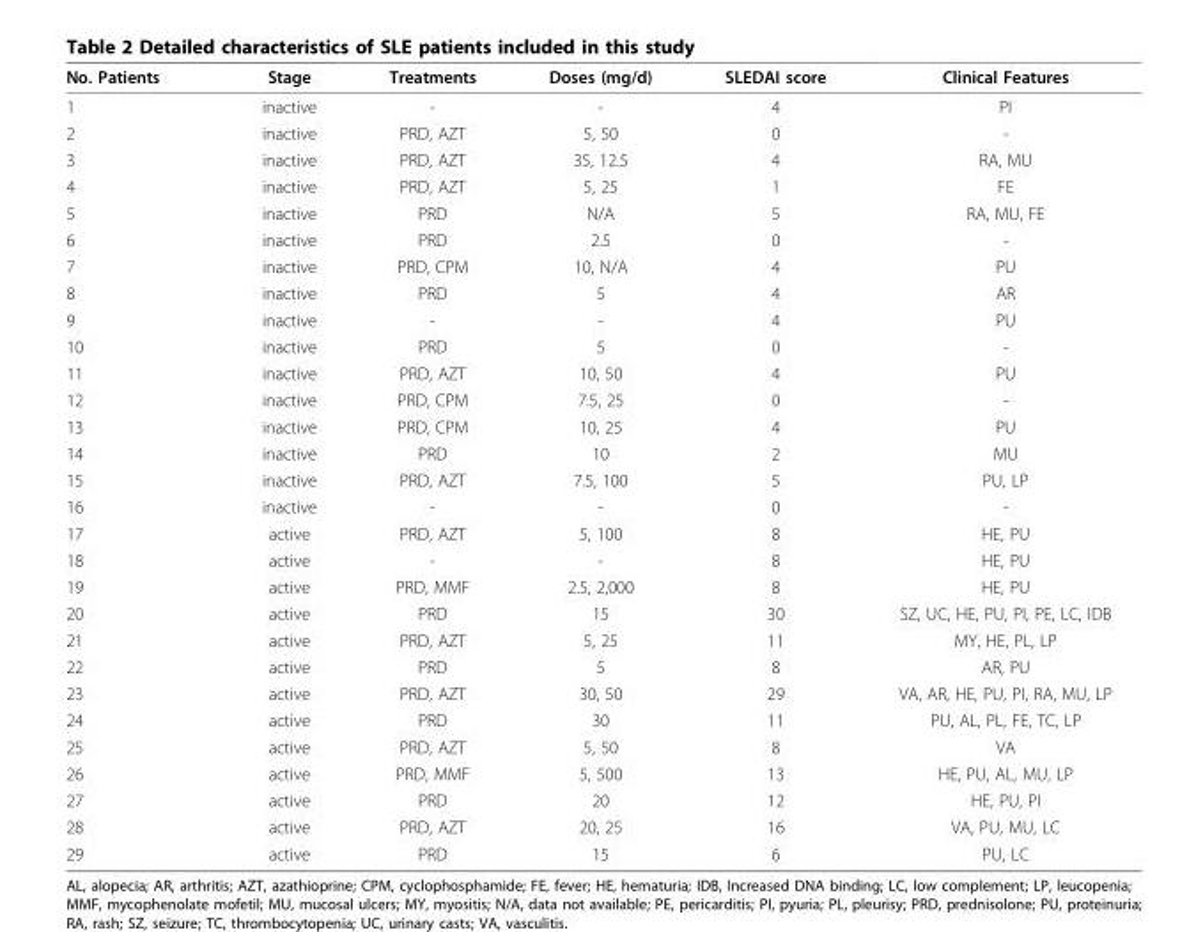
<table><thead><tr><td>No. Patients</td><td>Stage</td><td>Treatments</td><td>Doses (mg/d)</td><td>SLEDAI score</td><td>Clinical Features</td></tr></thead><tbody><tr><td>1</td><td>inactive</td><td>-</td><td>-</td><td>4</td><td>PI</td></tr><tr><td>2</td><td>inactive</td><td>PRD, AZT</td><td>5, 50</td><td>0</td><td>-</td></tr><tr><td>3</td><td>inactive</td><td>PRD, AZT</td><td>35, 12.5</td><td>4</td><td>RA, MU</td></tr><tr><td>4</td><td>inactive</td><td>PRD, AZT</td><td>5, 25</td><td>1</td><td>FE</td></tr><tr><td>5</td><td>inactive</td><td>PRD</td><td>N/A</td><td>5</td><td>RA, MU, FE</td></tr><tr><td>6</td><td>inactive</td><td>PRD</td><td>2.5</td><td>0</td><td>-</td></tr><tr><td>7</td><td>inactive</td><td>PRD, CPM</td><td>10, N/A</td><td>4</td><td>PU</td></tr><tr><td>8</td><td>inactive</td><td>PRD</td><td>5</td><td>4</td><td>AR</td></tr><tr><td>9</td><td>inactive</td><td>-</td><td>-</td><td>4</td><td>PU</td></tr><tr><td>10</td><td>inactive</td><td>PRD</td><td>5</td><td>0</td><td>-</td></tr><tr><td>11</td><td>inactive</td><td>PRD, AZT</td><td>10, 50</td><td>4</td><td>PU</td></tr><tr><td>12</td><td>inactive</td><td>PRD, CPM</td><td>7.5, 25</td><td>0</td><td>-</td></tr><tr><td>13</td><td>inactive</td><td>PRD, CPM</td><td>10, 25</td><td>4</td><td>PU</td></tr><tr><td>14</td><td>inactive</td><td>PRD</td><td>10</td><td>2</td><td>MU</td></tr><tr><td>15</td><td>inactive</td><td>PRD, AZT</td><td>7.5, 100</td><td>5</td><td>PU, LP</td></tr><tr><td>16</td><td>inactive</td><td>-</td><td>-</td><td>0</td><td>-</td></tr><tr><td>17</td><td>active</td><td>PRD, AZT</td><td>5, 100</td><td>8</td><td>HE, PU</td></tr><tr><td>18</td><td>active</td><td>-</td><td>-</td><td>8</td><td>HE, PU</td></tr><tr><td>19</td><td>active</td><td>PRD, MMF</td><td>2.5, 2,000</td><td>8</td><td>HE, PU</td></tr><tr><td>20</td><td>active</td><td>PRD</td><td>15</td><td>30</td><td>SZ, UC, HE, PU, PI, PE, LC, IDB</td></tr><tr><td>21</td><td>active</td><td>PRD, AZT</td><td>5, 25</td><td>11</td><td>MY, HE, PL, LP</td></tr><tr><td>22</td><td>active</td><td>PRD</td><td>5</td><td>8</td><td>AR, PU</td></tr><tr><td>23</td><td>active</td><td>PRD, AZT</td><td>30, 50</td><td>29</td><td>VA, AR, HE, PU, PI, RA, MU, LP</td></tr><tr><td>24</td><td>active</td><td>PRD</td><td>30</td><td>11</td><td>PU, AL, PL, FE, TC, LP</td></tr><tr><td>25</td><td>active</td><td>PRD, AZT</td><td>5, 50</td><td>8</td><td>VA</td></tr><tr><td>26</td><td>active</td><td>PRD, MMF</td><td>5, 500</td><td>13</td><td>HE, PU, AL, MU, LP</td></tr><tr><td>27</td><td>active</td><td>PRD</td><td>20</td><td>12</td><td>HE, PU, PI</td></tr><tr><td>28</td><td>active</td><td>PRD, AZT</td><td>20, 25</td><td>16</td><td>VA, PU, MU, LC</td></tr><tr><td>29</td><td>active</td><td>PRD</td><td>15</td><td>6</td><td>PU, LC</td></tr></tbody></table>